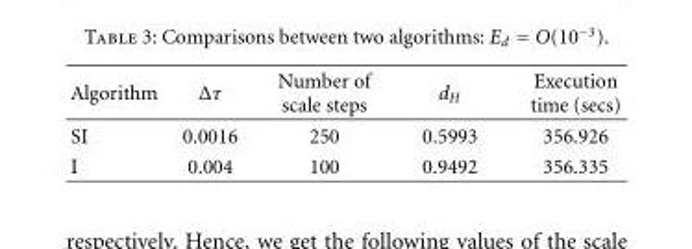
<table><thead><tr><td>Algorithm</td><td>Δτ</td><td>Number of scale steps</td><td>d<sub>H</sub></td><td>Execution time (secs)</td></tr></thead><tbody><tr><td>SI</td><td>0.0016</td><td>250</td><td>0.5993</td><td>356.926</td></tr><tr><td>I</td><td>0.004</td><td>100</td><td>0.9492</td><td>356.335</td></tr></tbody></table>